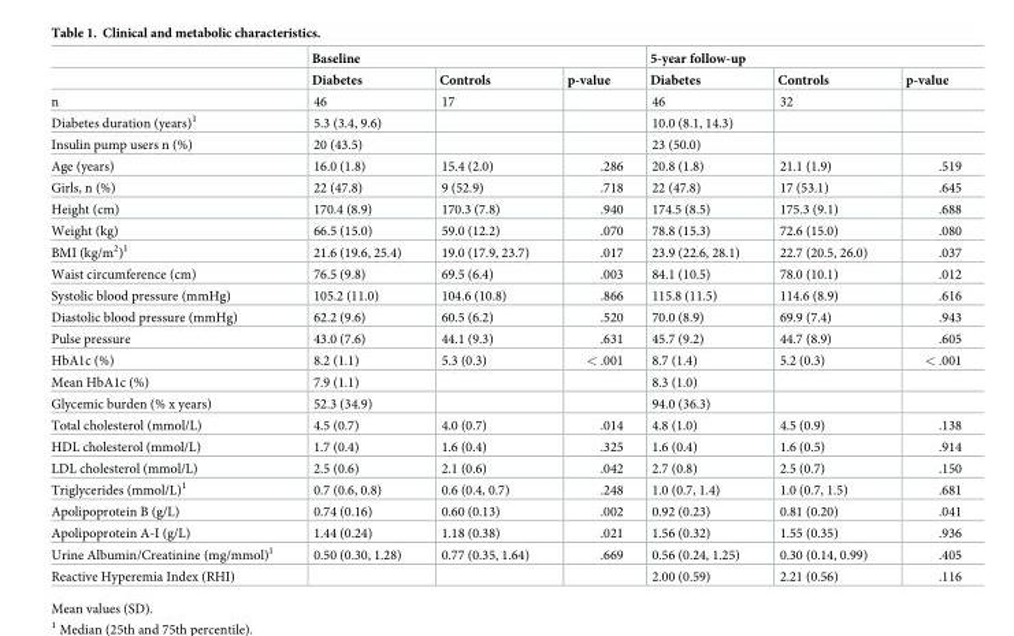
<table><thead><tr><td rowspan="2"></td><td colspan="3">Baseline</td><td colspan="3">5-year follow-up</td></tr><tr><td>Diabetes</td><td>Controls</td><td>p-value</td><td>Diabetes</td><td>Controls</td><td>p-value</td></tr></thead><tbody><tr><td>n</td><td>46</td><td>17</td><td></td><td>46</td><td>32</td><td></td></tr><tr><td>Diabetes duration (years)<sup>1</sup></td><td>5.3 (3.4, 9.6)</td><td></td><td></td><td>10.0 (8.1, 14.3)</td><td></td><td></td></tr><tr><td>Insulin pump users n (%)</td><td>20 (43.5)</td><td></td><td></td><td>23 (50.0)</td><td></td><td></td></tr><tr><td>Age (years)</td><td>16.0 (1.8)</td><td>15.4 (2.0)</td><td>.286</td><td>20.8 (1.8)</td><td>21.1 (1.9)</td><td>.519</td></tr><tr><td>Girls, n (%)</td><td>22 (47.8)</td><td>9 (52.9)</td><td>.718</td><td>22 (47.8)</td><td>17 (53.1)</td><td>.645</td></tr><tr><td>Height (cm)</td><td>170.4 (8.9)</td><td>170.3 (7.8)</td><td>.940</td><td>174.5 (8.5)</td><td>175.3 (9.1)</td><td>.688</td></tr><tr><td>Weight (kg)</td><td>66.5 (15.0)</td><td>59.0 (12.2)</td><td>.070</td><td>78.8 (15.3)</td><td>72.6 (15.0)</td><td>.080</td></tr><tr><td>BMI (kg/m<sup>2</sup>)<sup>1</sup></td><td>21.6 (19.6, 25.4)</td><td>19.0 (17.9, 23.7)</td><td>.017</td><td>23.9 (22.6, 28.1)</td><td>22.7 (20.5, 26.0)</td><td>.037</td></tr><tr><td>Waist circumference (cm)</td><td>76.5 (9.8)</td><td>69.5 (6.4)</td><td>.003</td><td>84.1 (10.5)</td><td>78.0 (10.1)</td><td>.012</td></tr><tr><td>Systolic blood pressure (mmHg)</td><td>105.2 (11.0)</td><td>104.6 (10.8)</td><td>.866</td><td>115.8 (11.5)</td><td>114.6 (8.9)</td><td>.616</td></tr><tr><td>Diastolic blood pressure (mmHg)</td><td>62.2 (9.6)</td><td>60.5 (6.2)</td><td>.520</td><td>70.0 (8.9)</td><td>69.9 (7.4)</td><td>.943</td></tr><tr><td>Pulse pressure</td><td>43.0 (7.6)</td><td>44.1 (9.3)</td><td>.631</td><td>45.7 (9.2)</td><td>44.7 (8.9)</td><td>.605</td></tr><tr><td>HbA1c (%)</td><td>8.2 (1.1)</td><td>5.3 (0.3)</td><td>&lt; .001</td><td>8.7 (1.4)</td><td>5.2 (0.3)</td><td>&lt; .001</td></tr><tr><td>Mean HbA1c (%)</td><td>7.9 (1.1)</td><td></td><td></td><td>8.3 (1.0)</td><td></td><td></td></tr><tr><td>Glycemic burden (% x years)</td><td>52.3 (34.9)</td><td></td><td></td><td>94.0 (36.3)</td><td></td><td></td></tr><tr><td>Total cholesterol (mmol/L)</td><td>4.5 (0.7)</td><td>4.0 (0.7)</td><td>.014</td><td>4.8 (1.0)</td><td>4.5 (0.9)</td><td>.138</td></tr><tr><td>HDL cholesterol (mmol/L)</td><td>1.7 (0.4)</td><td>1.6 (0.4)</td><td>.325</td><td>1.6 (0.4)</td><td>1.6 (0.5)</td><td>.914</td></tr><tr><td>LDL cholesterol (mmol/L)</td><td>2.5 (0.6)</td><td>2.1 (0.6)</td><td>.042</td><td>2.7 (0.8)</td><td>2.5 (0.7)</td><td>.150</td></tr><tr><td>Triglycerides (mmol/L)<sup>1</sup></td><td>0.7 (0.6, 0.8)</td><td>0.6 (0.4, 0.7)</td><td>.248</td><td>1.0 (0.7, 1.4)</td><td>1.0 (0.7, 1.5)</td><td>.681</td></tr><tr><td>Apolipoprotein B (g/L)</td><td>0.74 (0.16)</td><td>0.60 (0.13)</td><td>.002</td><td>0.92 (0.23)</td><td>0.81 (0.20)</td><td>.041</td></tr><tr><td>Apolipoprotein A-I (g/L)</td><td>1.44 (0.24)</td><td>1.18 (0.38)</td><td>.021</td><td>1.56 (0.32)</td><td>1.55 (0.35)</td><td>.936</td></tr><tr><td>Urine Albumin/Creatinine (mg/mmol)<sup>1</sup></td><td>0.50 (0.30, 1.28)</td><td>0.77 (0.35, 1.64)</td><td>.669</td><td>0.56 (0.24, 1.25)</td><td>0.30 (0.14, 0.99)</td><td>.405</td></tr><tr><td>Reactive Hyperemia Index (RHI)</td><td></td><td></td><td></td><td>2.00 (0.59)</td><td>2.21 (0.56)</td><td>.116</td></tr></tbody></table>